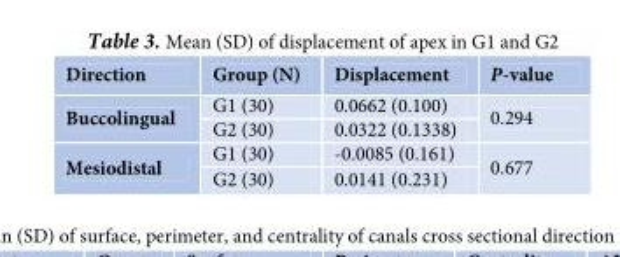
<table><thead><tr><td>Direction</td><td>Group (N)</td><td>Displacement</td><td>P-value</td></tr></thead><tbody><tr><td rowspan="2">Buccolingual</td><td>G1 (30)</td><td>0.0662 (0.100)</td><td rowspan="2">0.294</td></tr><tr><td>G2 (30)</td><td>0.0322 (0.1338)</td></tr><tr><td rowspan="2">Mesiodistal</td><td>G1 (30)</td><td>-0.0085 (0.161)</td><td rowspan="2">0.677</td></tr><tr><td>G2 (30)</td><td>0.0141 (0.231)</td></tr></tbody></table>